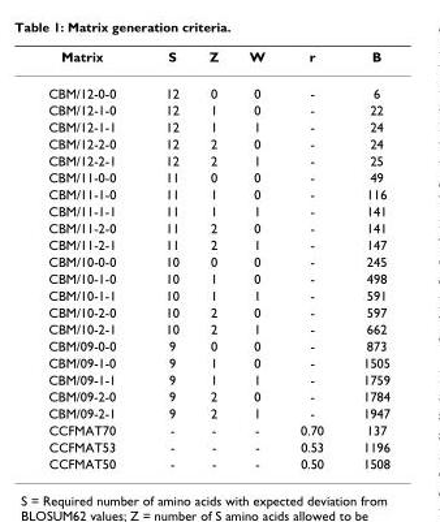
<table><thead><tr><td>Matrix</td><td>S</td><td>Z</td><td>W</td><td>r</td><td>B</td></tr></thead><tbody><tr><td>CBM/12-0-0</td><td>12</td><td>0</td><td>0</td><td>-</td><td>6</td></tr><tr><td>CBM/12-1-0</td><td>12</td><td>1</td><td>0</td><td>-</td><td>22</td></tr><tr><td>CBM/12-1-1</td><td>12</td><td>1</td><td>1</td><td>-</td><td>24</td></tr><tr><td>CBM/12-2-0</td><td>12</td><td>2</td><td>0</td><td>-</td><td>24</td></tr><tr><td>CBM/12-2-1</td><td>12</td><td>2</td><td>1</td><td>-</td><td>25</td></tr><tr><td>CBM/11-0-0</td><td>11</td><td>0</td><td>0</td><td>-</td><td>49</td></tr><tr><td>CBM/11-1-0</td><td>11</td><td>1</td><td>0</td><td>-</td><td>116</td></tr><tr><td>CBM/11-1-1</td><td>11</td><td>1</td><td>1</td><td>-</td><td>141</td></tr><tr><td>CBM/11-2-0</td><td>11</td><td>2</td><td>0</td><td>-</td><td>141</td></tr><tr><td>CBM/11-2-1</td><td>11</td><td>2</td><td>1</td><td>-</td><td>147</td></tr><tr><td>CBM/10-0-0</td><td>10</td><td>0</td><td>0</td><td>-</td><td>245</td></tr><tr><td>CBM/10-1-0</td><td>10</td><td>1</td><td>0</td><td>-</td><td>498</td></tr><tr><td>CBM/10-1-1</td><td>10</td><td>1</td><td>1</td><td>-</td><td>591</td></tr><tr><td>CBM/10-2-0</td><td>10</td><td>2</td><td>0</td><td>-</td><td>597</td></tr><tr><td>CBM/10-2-1</td><td>10</td><td>2</td><td>1</td><td>-</td><td>662</td></tr><tr><td>CBM/09-0-0</td><td>9</td><td>0</td><td>0</td><td>-</td><td>873</td></tr><tr><td>CBM/09-1-0</td><td>9</td><td>1</td><td>0</td><td>-</td><td>1505</td></tr><tr><td>CBM/09-1-1</td><td>9</td><td>1</td><td>1</td><td>-</td><td>1759</td></tr><tr><td>CBM/09-2-0</td><td>9</td><td>2</td><td>0</td><td>-</td><td>1784</td></tr><tr><td>CBM/09-2-1</td><td>9</td><td>2</td><td>1</td><td>-</td><td>1947</td></tr><tr><td>CCFMAT70</td><td>-</td><td>-</td><td>-</td><td>0.70</td><td>137</td></tr><tr><td>CCFMAT53</td><td>-</td><td>-</td><td>-</td><td>0.53</td><td>1196</td></tr><tr><td>CCFMAT50</td><td>-</td><td>-</td><td>-</td><td>0.50</td><td>1508</td></tr></tbody></table>